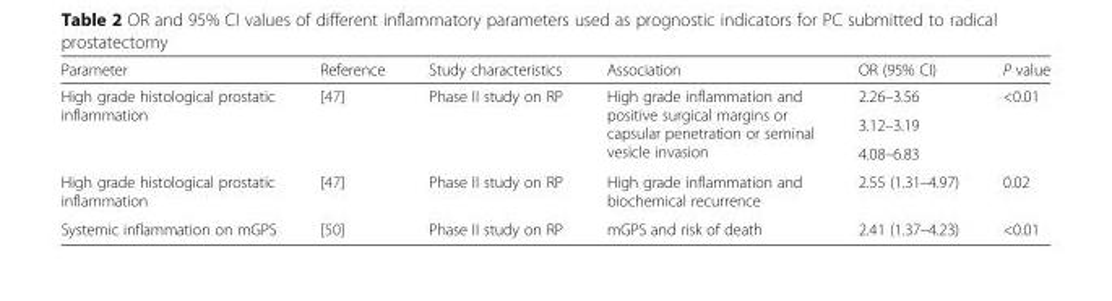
<table><thead><tr><td>Parameter</td><td>Reference</td><td>Study characteristics</td><td>Association</td><td>OR (95% CI)</td><td>P value</td></tr></thead><tbody><tr><td rowspan="3">High grade histological prostatic inflammation</td><td rowspan="3">[47]</td><td rowspan="3">Phase II study on RP</td><td rowspan="3">High grade inflammation and positive surgical margins or capsular penetration or seminal vesicle invasion</td><td>2.26–3.56</td><td rowspan="3">&lt;0.01</td></tr><tr><td>3.12–3.19</td></tr><tr><td>4.08–6.83</td></tr><tr><td>High grade histological prostatic inflammation</td><td>[47]</td><td>Phase II study on RP</td><td>High grade inflammation and biochemical recurrence</td><td>2.55 (1.31–4.97)</td><td>0.02</td></tr><tr><td>Systemic inflammation on mGPS</td><td>[50]</td><td>Phase II study on RP</td><td>mGPS and risk of death</td><td>2.41 (1.37–4.23)</td><td>&lt;0.01</td></tr></tbody></table>